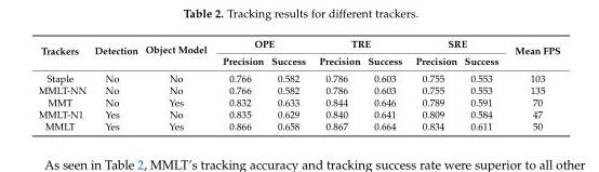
<table><thead><tr><td rowspan="2">Trackers</td><td rowspan="2">Detection</td><td rowspan="2">Object Model</td><td colspan="2">OPE</td><td colspan="2">TRE</td><td colspan="2">SRE</td><td rowspan="2">Mean FPS</td></tr><tr><td>Precision</td><td>Success</td><td>Precision</td><td>Success</td><td>Precision</td><td>Success</td></tr></thead><tbody><tr><td>Staple</td><td>No</td><td>No</td><td>0.766</td><td>0.582</td><td>0.786</td><td>0.603</td><td>0.755</td><td>0.553</td><td>103</td></tr><tr><td>MMLT-NN</td><td>No</td><td>No</td><td>0.766</td><td>0.582</td><td>0.786</td><td>0.603</td><td>0.755</td><td>0.553</td><td>135</td></tr><tr><td>MMT</td><td>No</td><td>Yes</td><td>0.832</td><td>0.633</td><td>0.844</td><td>0.646</td><td>0.789</td><td>0.591</td><td>70</td></tr><tr><td>MMLT-N1</td><td>Yes</td><td>No</td><td>0.835</td><td>0.629</td><td>0.840</td><td>0.641</td><td>0.809</td><td>0.584</td><td>47</td></tr><tr><td>MMLT</td><td>Yes</td><td>Yes</td><td>0.866</td><td>0.658</td><td>0.867</td><td>0.664</td><td>0.834</td><td>0.611</td><td>50</td></tr></tbody></table>